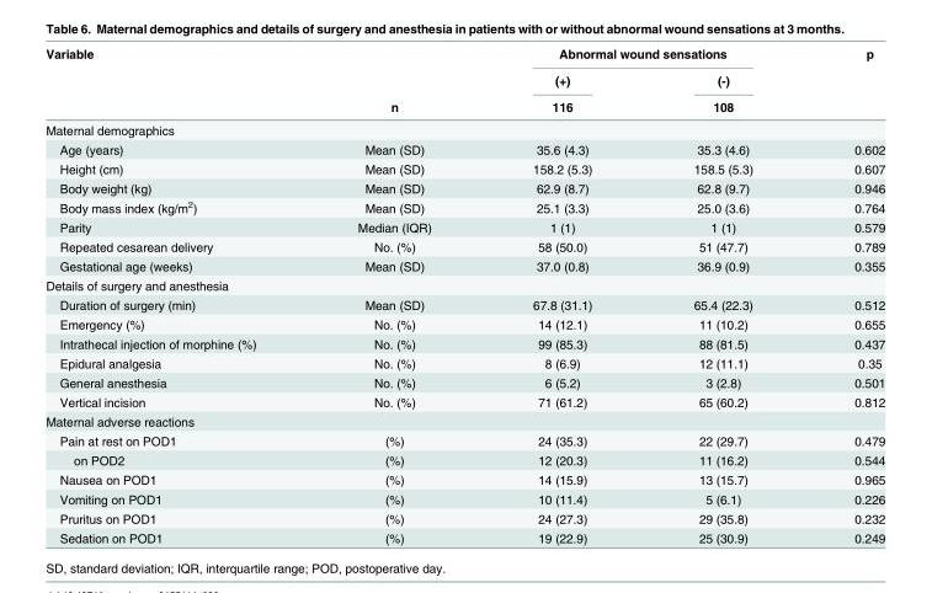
<table><thead><tr><td rowspan="2">Variable</td><td rowspan="2"></td><td colspan="2">Abnormal wound sensations</td><td rowspan="2">p</td></tr><tr><td>(+)</td><td>(-)</td></tr></thead><tbody><tr><td></td><td>n</td><td>116</td><td>108</td><td></td></tr><tr><td colspan="5">Maternal demographics</td></tr><tr><td>Age (years)</td><td>Mean (SD)</td><td>35.6 (4.3)</td><td>35.3 (4.6)</td><td>0.602</td></tr><tr><td>Height (cm)</td><td>Mean (SD)</td><td>158.2 (5.3)</td><td>158.5 (5.3)</td><td>0.607</td></tr><tr><td>Body weight (kg)</td><td>Mean (SD)</td><td>62.9 (8.7)</td><td>62.8 (9.7)</td><td>0.946</td></tr><tr><td>Body mass index (kg/m<sup>2</sup>)</td><td>Mean (SD)</td><td>25.1 (3.3)</td><td>25.0 (3.6)</td><td>0.764</td></tr><tr><td>Parity</td><td>Median (IQR)</td><td>1 (1)</td><td>1 (1)</td><td>0.579</td></tr><tr><td>Repeated cesarean delivery</td><td>No. (%)</td><td>58 (50.0)</td><td>51 (47.7)</td><td>0.789</td></tr><tr><td>Gestational age (weeks)</td><td>Mean (SD)</td><td>37.0 (0.8)</td><td>36.9 (0.9)</td><td>0.355</td></tr><tr><td colspan="5">Details of surgery and anesthesia</td></tr><tr><td>Duration of surgery (min)</td><td>Mean (SD)</td><td>67.8 (31.1)</td><td>65.4 (22.3)</td><td>0.512</td></tr><tr><td>Emergency (%)</td><td>No. (%)</td><td>14 (12.1)</td><td>11 (10.2)</td><td>0.655</td></tr><tr><td>Intrathecal injection of morphine (%)</td><td>No. (%)</td><td>99 (85.3)</td><td>88 (81.5)</td><td>0.437</td></tr><tr><td>Epidural analgesia</td><td>No. (%)</td><td>8 (6.9)</td><td>12 (11.1)</td><td>0.35</td></tr><tr><td>General anesthesia</td><td>No. (%)</td><td>6 (5.2)</td><td>3 (2.8)</td><td>0.501</td></tr><tr><td>Vertical incision</td><td>No. (%)</td><td>71 (61.2)</td><td>65 (60.2)</td><td>0.812</td></tr><tr><td colspan="5">Maternal adverse reactions</td></tr><tr><td>Pain at rest on POD1</td><td>(%)</td><td>24 (35.3)</td><td>22 (29.7)</td><td>0.479</td></tr><tr><td>on POD2</td><td>(%)</td><td>12 (20.3)</td><td>11 (16.2)</td><td>0.544</td></tr><tr><td>Nausea on POD1</td><td>(%)</td><td>14 (15.9)</td><td>13 (15.7)</td><td>0.965</td></tr><tr><td>Vomiting on POD1</td><td>(%)</td><td>10 (11.4)</td><td>5 (6.1)</td><td>0.226</td></tr><tr><td>Pruritus on POD1</td><td>(%)</td><td>24 (27.3)</td><td>29 (35.8)</td><td>0.232</td></tr><tr><td>Sedation on POD1</td><td>(%)</td><td>19 (22.9)</td><td>25 (30.9)</td><td>0.249</td></tr></tbody></table>